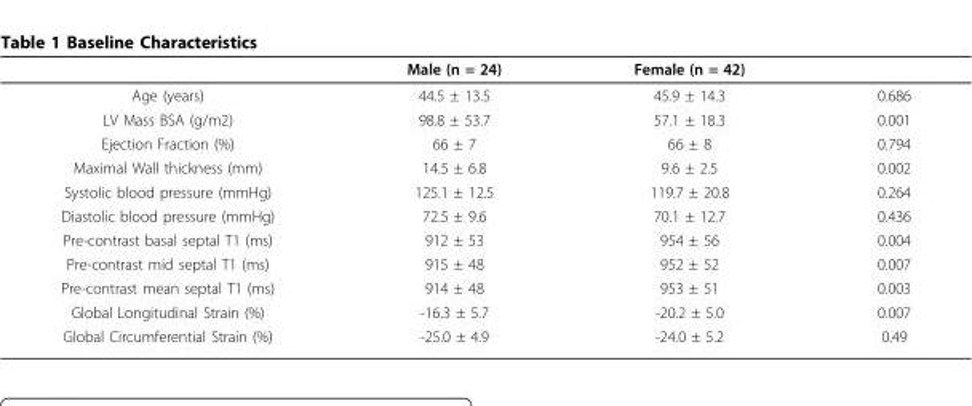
<table><thead><tr><td></td><td>Male (n = 24)</td><td>Female (n = 42)</td><td></td></tr></thead><tbody><tr><td>Age (years)</td><td>44.5 ± 13.5</td><td>45.9 ± 14.3</td><td>0.686</td></tr><tr><td>LV Mass BSA (g/m2)</td><td>98.8 ± 53.7</td><td>57.1 ± 18.3</td><td>0.001</td></tr><tr><td>Ejection Fraction (%)</td><td>66 ± 7</td><td>66 ± 8</td><td>0.794</td></tr><tr><td>Maximal Wall thickness (mm)</td><td>14.5 ± 6.8</td><td>9.6 ± 2.5</td><td>0.002</td></tr><tr><td>Systolic blood pressure (mmHg)</td><td>125.1 ± 12.5</td><td>119.7 ± 20.8</td><td>0.264</td></tr><tr><td>Diastolic blood pressure (mmHg)</td><td>72.5 ± 9.6</td><td>70.1 ± 12.7</td><td>0.436</td></tr><tr><td>Pre-contrast basal septal T1 (ms)</td><td>912 ± 53</td><td>954 ± 56</td><td>0.004</td></tr><tr><td>Pre-contrast mid septal T1 (ms)</td><td>915 ± 48</td><td>952 ± 52</td><td>0.007</td></tr><tr><td>Pre-contrast mean septal T1 (ms)</td><td>914 ± 48</td><td>953 ± 51</td><td>0.003</td></tr><tr><td>Global Longitudinal Strain (%)</td><td>-16.3 ± 5.7</td><td>-20.2 ± 5.0</td><td>0.007</td></tr><tr><td>Global Circumferential Strain (%)</td><td>-25.0 ± 4.9</td><td>-24.0 ± 5.2</td><td>0.49</td></tr></tbody></table>